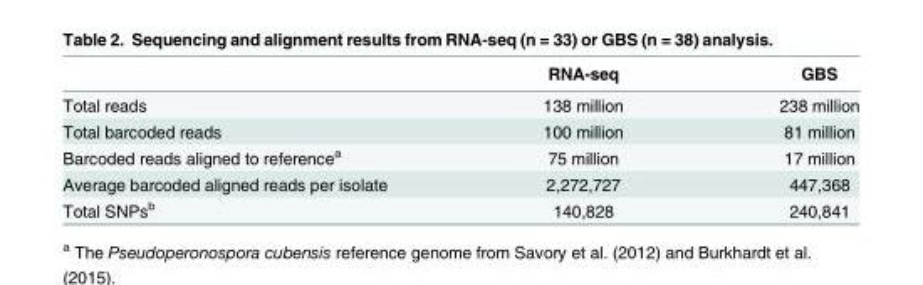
<table><thead><tr><td></td><td>RNA-seq</td><td>GBS</td></tr></thead><tbody><tr><td>Total reads</td><td>138 million</td><td>238 million</td></tr><tr><td>Total barcoded reads</td><td>100 million</td><td>81 million</td></tr><tr><td>Barcoded reads aligned to reference<sup>a</sup></td><td>75 million</td><td>17 million</td></tr><tr><td>Average barcoded aligned reads per isolate</td><td>2,272,727</td><td>447,368</td></tr><tr><td>Total SNPs<sup>b</sup></td><td>140,828</td><td>240,841</td></tr></tbody></table>